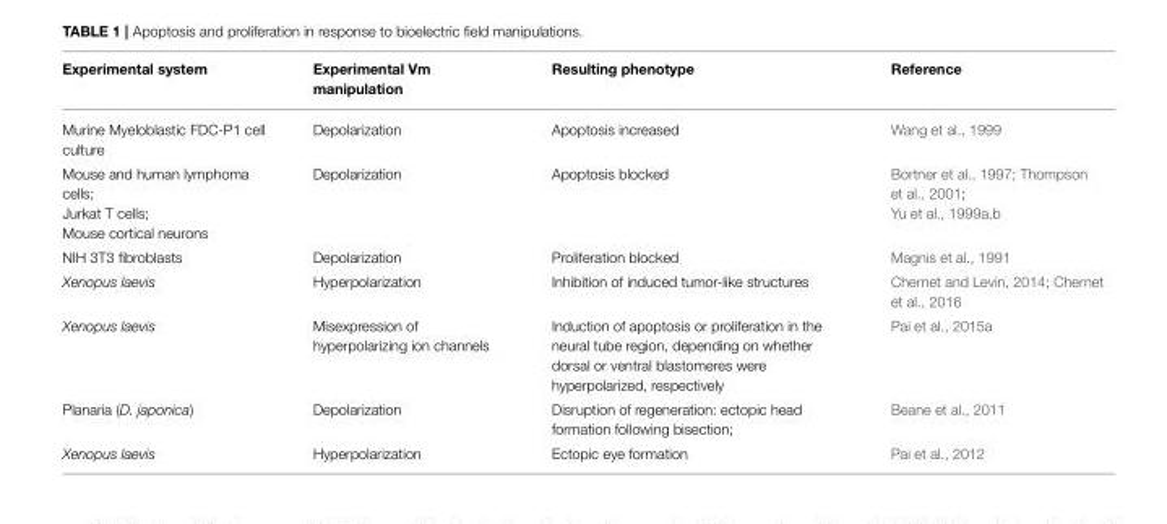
<table><thead><tr><td>Experimental system</td><td>Experimental Vm manipulation</td><td>Resulting phenotype</td><td>Reference</td></tr></thead><tbody><tr><td>Murine Myeloblastic FDC-P1 cell culture</td><td>Depolarization</td><td>Apoptosis increased</td><td>Wang et al., 1999</td></tr><tr><td>Mouse and human lymphoma cells; Jurkat T cells; Mouse cortical neurons</td><td>Depolarization</td><td>Apoptosis blocked</td><td>Bortner et al., 1997; Thompson et al., 2001; Yu et al., 1999a,b</td></tr><tr><td>NIH 3T3 fibroblasts</td><td>Depolarization</td><td>Proliferation blocked</td><td>Magnis et al., 1991</td></tr><tr><td>Xenopus laevis</td><td>Hyperpolarization</td><td>Inhibition of induced tumor-like structures</td><td>Chernet and Levin, 2014; Chernet et al., 2016</td></tr><tr><td>Xenopus laevis</td><td>Misexpression of hyperpolarizing ion channels</td><td>Induction of apoptosis or proliferation in the neural tube region, depending on whether dorsal or ventral blastomeres were hyperpolarized, respectively</td><td>Pai et al., 2015a</td></tr><tr><td>Planaria (D. japonica)</td><td>Depolarization</td><td>Disruption of regeneration: ectopic head formation following bisection;</td><td>Beane et al., 2011</td></tr><tr><td>Xenopus laevis</td><td>Hyperpolarization</td><td>Ectopic eye formation</td><td>Pai et al., 2012</td></tr></tbody></table>